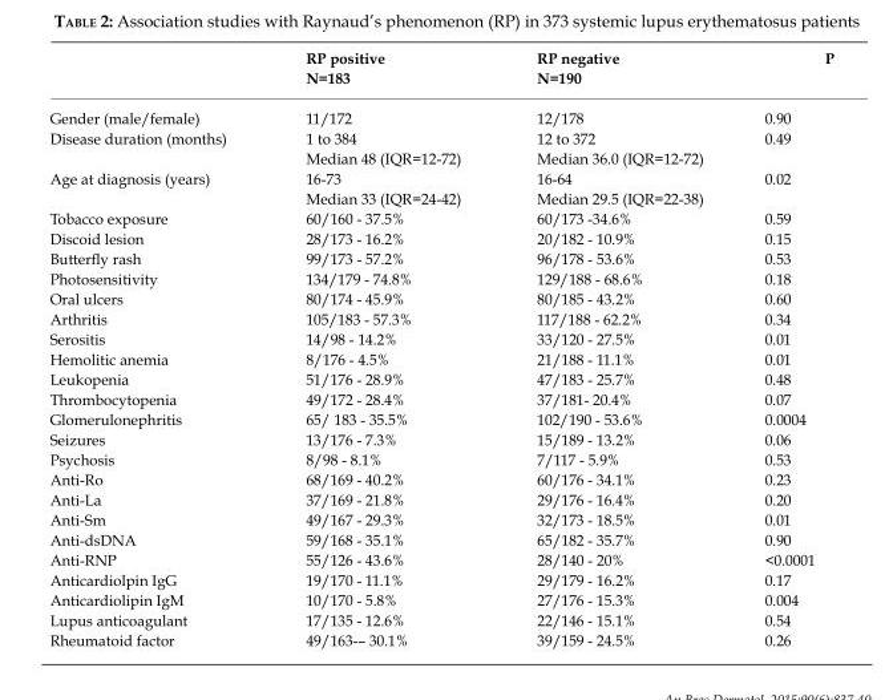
<table><thead><tr><td rowspan="2"></td><td rowspan="2">RP positive N=183</td><td rowspan="2">RP negative N=190</td><td rowspan="2">P</td></tr><tr></tr></thead><tbody><tr><td>Gender (male/female)</td><td>11/172</td><td>12/178</td><td>0.90</td></tr><tr><td rowspan="2">Disease duration (months)</td><td>1 to 384</td><td>12 to 372</td><td>0.49</td></tr><tr><td>Median 48 (IQR=12-72)</td><td>Median 36.0 (IQR=12-72)</td><td></td></tr><tr><td rowspan="2">Age at diagnosis (years)</td><td>16-73</td><td>16-64</td><td>0.02</td></tr><tr><td>Median 33 (IQR=24-42)</td><td>Median 29.5 (IQR=22-38)</td><td></td></tr><tr><td>Tobacco exposure</td><td>60/160 - 37.5%</td><td>60/173 -34.6%</td><td>0.59</td></tr><tr><td>Discoid lesion</td><td>28/173 - 16.2%</td><td>20/182 - 10.9%</td><td>0.15</td></tr><tr><td>Butterfly rash</td><td>99/173 - 57.2%</td><td>96/178 - 53.6%</td><td>0.53</td></tr><tr><td>Photosensitivity</td><td>134/179 - 74.8%</td><td>129/188 - 68.6%</td><td>0.18</td></tr><tr><td>Oral ulcers</td><td>80/174 - 45.9%</td><td>80/185 - 43.2%</td><td>0.60</td></tr><tr><td>Arthritis</td><td>105/183 - 57.3%</td><td>117/188 - 62.2%</td><td>0.34</td></tr><tr><td>Serositis</td><td>14/98 - 14.2%</td><td>33/120 - 27.5%</td><td>0.01</td></tr><tr><td>Hemolitic anemia</td><td>8/176 - 4.5%</td><td>21/188 - 11.1%</td><td>0.01</td></tr><tr><td>Leukopenia</td><td>51/176 - 28.9%</td><td>47/183 - 25.7%</td><td>0.48</td></tr><tr><td>Thrombocytopenia</td><td>49/172 - 28.4%</td><td>37/181- 20.4%</td><td>0.07</td></tr><tr><td>Glomerulonephritis</td><td>65/ 183 - 35.5%</td><td>102/190 - 53.6%</td><td>0.0004</td></tr><tr><td>Seizures</td><td>13/176 - 7.3%</td><td>15/189 - 13.2%</td><td>0.06</td></tr><tr><td>Psychosis</td><td>8/98 - 8.1%</td><td>7/117 - 5.9%</td><td>0.53</td></tr><tr><td>Anti-Ro</td><td>68/169 - 40.2%</td><td>60/176 - 34.1%</td><td>0.23</td></tr><tr><td>Anti-La</td><td>37/169 - 21.8%</td><td>29/176 - 16.4%</td><td>0.20</td></tr><tr><td>Anti-Sm</td><td>49/167 - 29.3%</td><td>32/173 - 18.5%</td><td>0.01</td></tr><tr><td>Anti-dsDNA</td><td>59/168 - 35.1%</td><td>65/182 - 35.7%</td><td>0.90</td></tr><tr><td>Anti-RNP</td><td>55/126 - 43.6%</td><td>28/140 - 20%</td><td>&lt;0.0001</td></tr><tr><td>Anticardiolpin IgG</td><td>19/170 - 11.1%</td><td>29/179 - 16.2%</td><td>0.17</td></tr><tr><td>Anticardiolipin IgM</td><td>10/170 - 5.8%</td><td>27/176 - 15.3%</td><td>0.004</td></tr><tr><td>Lupus anticoagulant</td><td>17/135 - 12.6%</td><td>22/146 - 15.1%</td><td>0.54</td></tr><tr><td>Rheumatoid factor</td><td>49/163-– 30.1%</td><td>39/159 - 24.5%</td><td>0.26</td></tr></tbody></table>